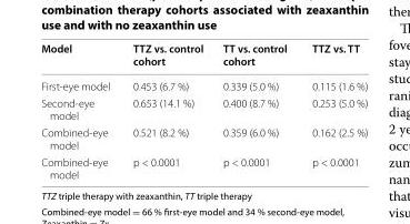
<table><thead><tr><td>Model</td><td>TTZ vs. control cohort</td><td>TT vs. control cohort</td><td>TTZ vs. TT</td></tr></thead><tbody><tr><td>First-eye model</td><td>0.453 (6.7 %)</td><td>0.339 (5.0 %)</td><td>0.115 (1.6 %)</td></tr><tr><td>Second-eye model</td><td>0.653 (14.1 %)</td><td>0.400 (8.7 %)</td><td>0.253 (5.0 %)</td></tr><tr><td>Combined-eye model</td><td>0.521 (8.2 %)</td><td>0.359 (6.0 %)</td><td>0.162 (2.5 %)</td></tr><tr><td>Combined-eye model</td><td>p &lt; 0.0001</td><td>p &lt; 0.0001</td><td>p &lt; 0.0001</td></tr></tbody></table>